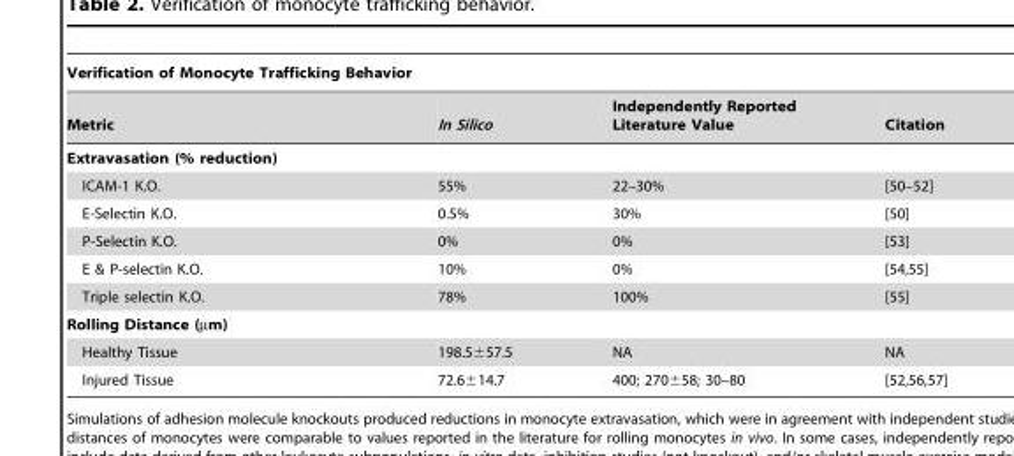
<table><thead><tr><td colspan="4">Verification of Monocyte Trafficking Behavior</td></tr><tr><td>Metric</td><td>In Silico</td><td>Independently Reported Literature Value</td><td>Citation</td></tr></thead><tbody><tr><td colspan="4">Extravasation (% reduction)</td></tr><tr><td>ICAM-1 K.O.</td><td>55%</td><td>22–30%</td><td>[50–52]</td></tr><tr><td>E-Selectin K.O.</td><td>0.5%</td><td>30%</td><td>[50]</td></tr><tr><td>P-Selectin K.O.</td><td>0%</td><td>0%</td><td>[53]</td></tr><tr><td>E &amp; P-selectin K.O.</td><td>10%</td><td>0%</td><td>[54,55]</td></tr><tr><td>Triple selectin K.O.</td><td>78%</td><td>100%</td><td>[55]</td></tr><tr><td colspan="4">Rolling Distance (µm)</td></tr><tr><td>Healthy Tissue</td><td>198.5±57.5</td><td>NA</td><td>NA</td></tr><tr><td>Injured Tissue</td><td>72.6±14.7</td><td>400; 270±58; 30–80</td><td>[52,56,57]</td></tr></tbody></table>